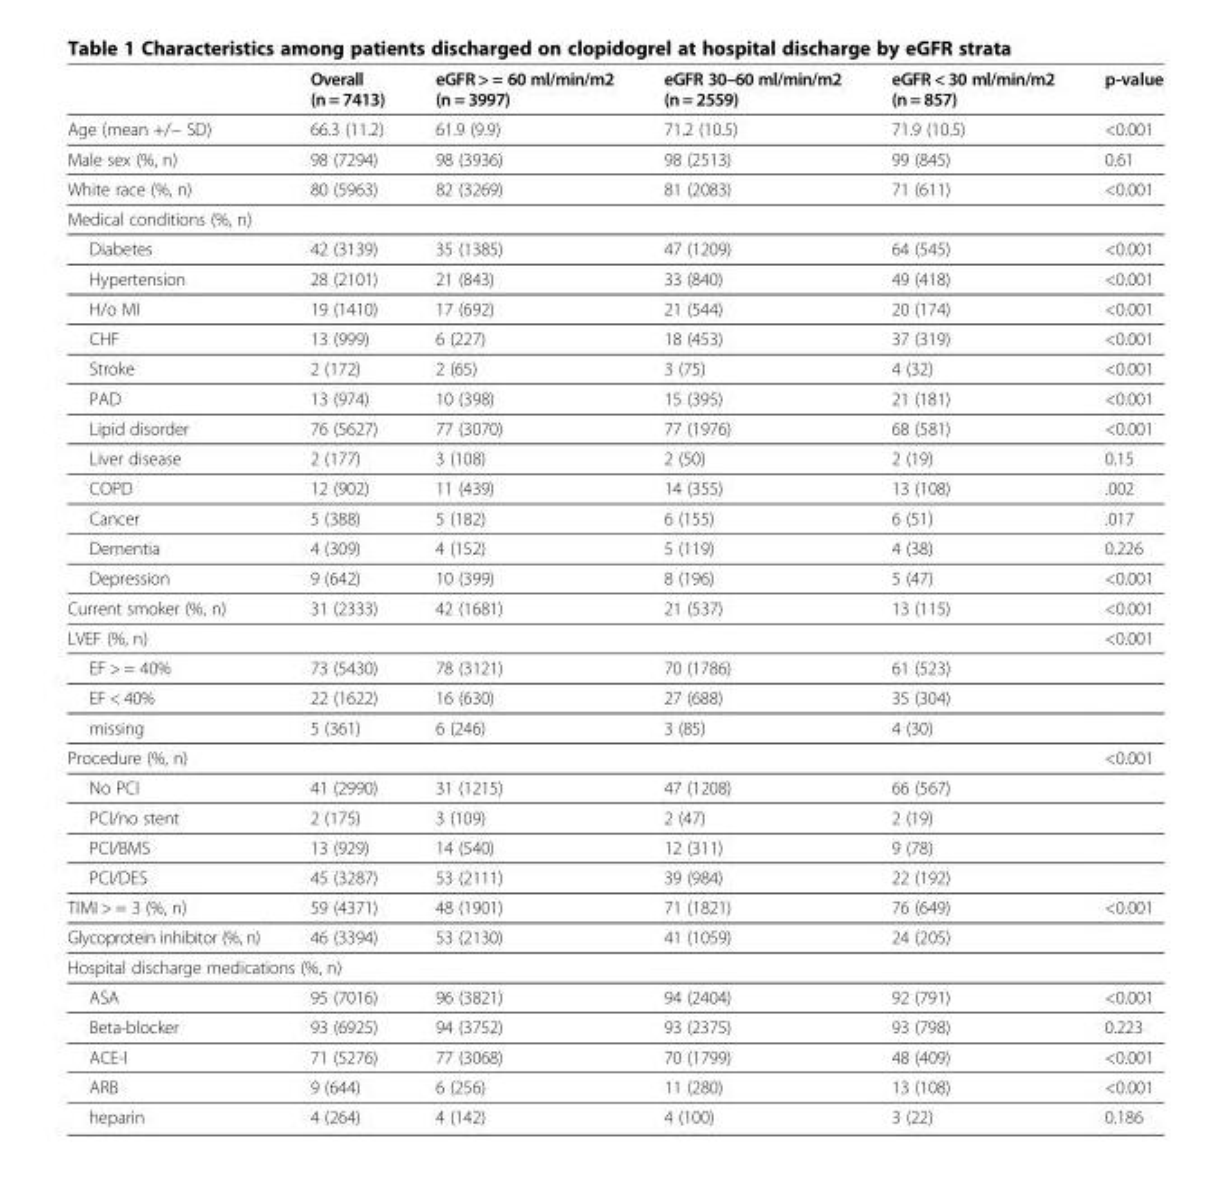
<table><thead><tr><td></td><td>Overall (n = 7413)</td><td>eGFR &gt; = 60 ml/min/m2 (n = 3997)</td><td>eGFR 30–60 ml/min/m2 (n = 2559)</td><td>eGFR &lt; 30 ml/min/m2 (n = 857)</td><td>p-value</td></tr></thead><tbody><tr><td>Age (mean +/− SD)</td><td>66.3 (11.2)</td><td>61.9 (9.9)</td><td>71.2 (10.5)</td><td>71.9 (10.5)</td><td>&lt;0.001</td></tr><tr><td>Male sex (%, n)</td><td>98 (7294)</td><td>98 (3936)</td><td>98 (2513)</td><td>99 (845)</td><td>0.61</td></tr><tr><td>White race (%, n)</td><td>80 (5963)</td><td>82 (3269)</td><td>81 (2083)</td><td>71 (611)</td><td>&lt;0.001</td></tr><tr><td colspan="6">Medical conditions (%, n)</td></tr><tr><td>Diabetes</td><td>42 (3139)</td><td>35 (1385)</td><td>47 (1209)</td><td>64 (545)</td><td>&lt;0.001</td></tr><tr><td>Hypertension</td><td>28 (2101)</td><td>21 (843)</td><td>33 (840)</td><td>49 (418)</td><td>&lt;0.001</td></tr><tr><td>H/o MI</td><td>19 (1410)</td><td>17 (692)</td><td>21 (544)</td><td>20 (174)</td><td>&lt;0.001</td></tr><tr><td>CHF</td><td>13 (999)</td><td>6 (227)</td><td>18 (453)</td><td>37 (319)</td><td>&lt;0.001</td></tr><tr><td>Stroke</td><td>2 (172)</td><td>2 (65)</td><td>3 (75)</td><td>4 (32)</td><td>&lt;0.001</td></tr><tr><td>PAD</td><td>13 (974)</td><td>10 (398)</td><td>15 (395)</td><td>21 (181)</td><td>&lt;0.001</td></tr><tr><td>Lipid disorder</td><td>76 (5627)</td><td>77 (3070)</td><td>77 (1976)</td><td>68 (581)</td><td>&lt;0.001</td></tr><tr><td>Liver disease</td><td>2 (177)</td><td>3 (108)</td><td>2 (50)</td><td>2 (19)</td><td>0.15</td></tr><tr><td>COPD</td><td>12 (902)</td><td>11 (439)</td><td>14 (355)</td><td>13 (108)</td><td>.002</td></tr><tr><td>Cancer</td><td>5 (388)</td><td>5 (182)</td><td>6 (155)</td><td>6 (51)</td><td>.017</td></tr><tr><td>Dementia</td><td>4 (309)</td><td>4 (152)</td><td>5 (119)</td><td>4 (38)</td><td>0.226</td></tr><tr><td>Depression</td><td>9 (642)</td><td>10 (399)</td><td>8 (196)</td><td>5 (47)</td><td>&lt;0.001</td></tr><tr><td>Current smoker (%, n)</td><td>31 (2333)</td><td>42 (1681)</td><td>21 (537)</td><td>13 (115)</td><td>&lt;0.001</td></tr><tr><td>LVEF (%, n)</td><td></td><td></td><td></td><td></td><td>&lt;0.001</td></tr><tr><td>EF &gt; = 40%</td><td>73 (5430)</td><td>78 (3121)</td><td>70 (1786)</td><td>61 (523)</td><td></td></tr><tr><td>EF &lt; 40%</td><td>22 (1622)</td><td>16 (630)</td><td>27 (688)</td><td>35 (304)</td><td></td></tr><tr><td>missing</td><td>5 (361)</td><td>6 (246)</td><td>3 (85)</td><td>4 (30)</td><td></td></tr><tr><td>Procedure (%, n)</td><td></td><td></td><td></td><td></td><td>&lt;0.001</td></tr><tr><td>No PCI</td><td>41 (2990)</td><td>31 (1215)</td><td>47 (1208)</td><td>66 (567)</td><td></td></tr><tr><td>PCI/no stent</td><td>2 (175)</td><td>3 (109)</td><td>2 (47)</td><td>2 (19)</td><td></td></tr><tr><td>PCI/BMS</td><td>13 (929)</td><td>14 (540)</td><td>12 (311)</td><td>9 (78)</td><td></td></tr><tr><td>PCI/DES</td><td>45 (3287)</td><td>53 (2111)</td><td>39 (984)</td><td>22 (192)</td><td></td></tr><tr><td>TIMI &gt; = 3 (%, n)</td><td>59 (4371)</td><td>48 (1901)</td><td>71 (1821)</td><td>76 (649)</td><td>&lt;0.001</td></tr><tr><td>Glycoprotein inhibitor (%, n)</td><td>46 (3394)</td><td>53 (2130)</td><td>41 (1059)</td><td>24 (205)</td><td></td></tr><tr><td colspan="6">Hospital discharge medications (%, n)</td></tr><tr><td>ASA</td><td>95 (7016)</td><td>96 (3821)</td><td>94 (2404)</td><td>92 (791)</td><td>&lt;0.001</td></tr><tr><td>Beta-blocker</td><td>93 (6925)</td><td>94 (3752)</td><td>93 (2375)</td><td>93 (798)</td><td>0.223</td></tr><tr><td>ACE-I</td><td>71 (5276)</td><td>77 (3068)</td><td>70 (1799)</td><td>48 (409)</td><td>&lt;0.001</td></tr><tr><td>ARB</td><td>9 (644)</td><td>6 (256)</td><td>11 (280)</td><td>13 (108)</td><td>&lt;0.001</td></tr><tr><td>heparin</td><td>4 (264)</td><td>4 (142)</td><td>4 (100)</td><td>3 (22)</td><td>0.186</td></tr></tbody></table>